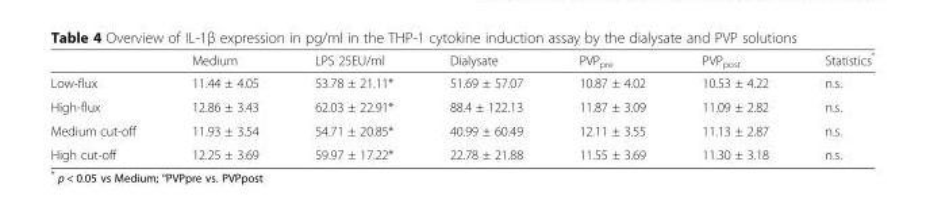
<table><thead><tr><td></td><td>Medium</td><td>LPS 25EU/ml</td><td>Dialysate</td><td>PVP<sub>pre</sub></td><td>PVP<sub>post</sub></td><td>Statistics<sup>°</sup></td></tr></thead><tbody><tr><td>Low-flux</td><td>11.44 ± 4.05</td><td>53.78 ± 21.11*</td><td>51.69 ± 57.07</td><td>10.87 ± 4.02</td><td>10.53 ± 4.22</td><td>n.s.</td></tr><tr><td>High-flux</td><td>12.86 ± 3.43</td><td>62.03 ± 22.91*</td><td>88.4 ± 122.13</td><td>11.87 ± 3.09</td><td>11.09 ± 2.82</td><td>n.s.</td></tr><tr><td>Medium cut-off</td><td>11.93 ± 3.54</td><td>54.71 ± 20.85*</td><td>40.99 ± 60.49</td><td>12.11 ± 3.55</td><td>11.13 ± 2.87</td><td>n.s.</td></tr><tr><td>High cut-off</td><td>12.25 ± 3.69</td><td>59.97 ± 17.22*</td><td>22.78 ± 21.88</td><td>11.55 ± 3.69</td><td>11.30 ± 3.18</td><td>n.s.</td></tr></tbody></table>